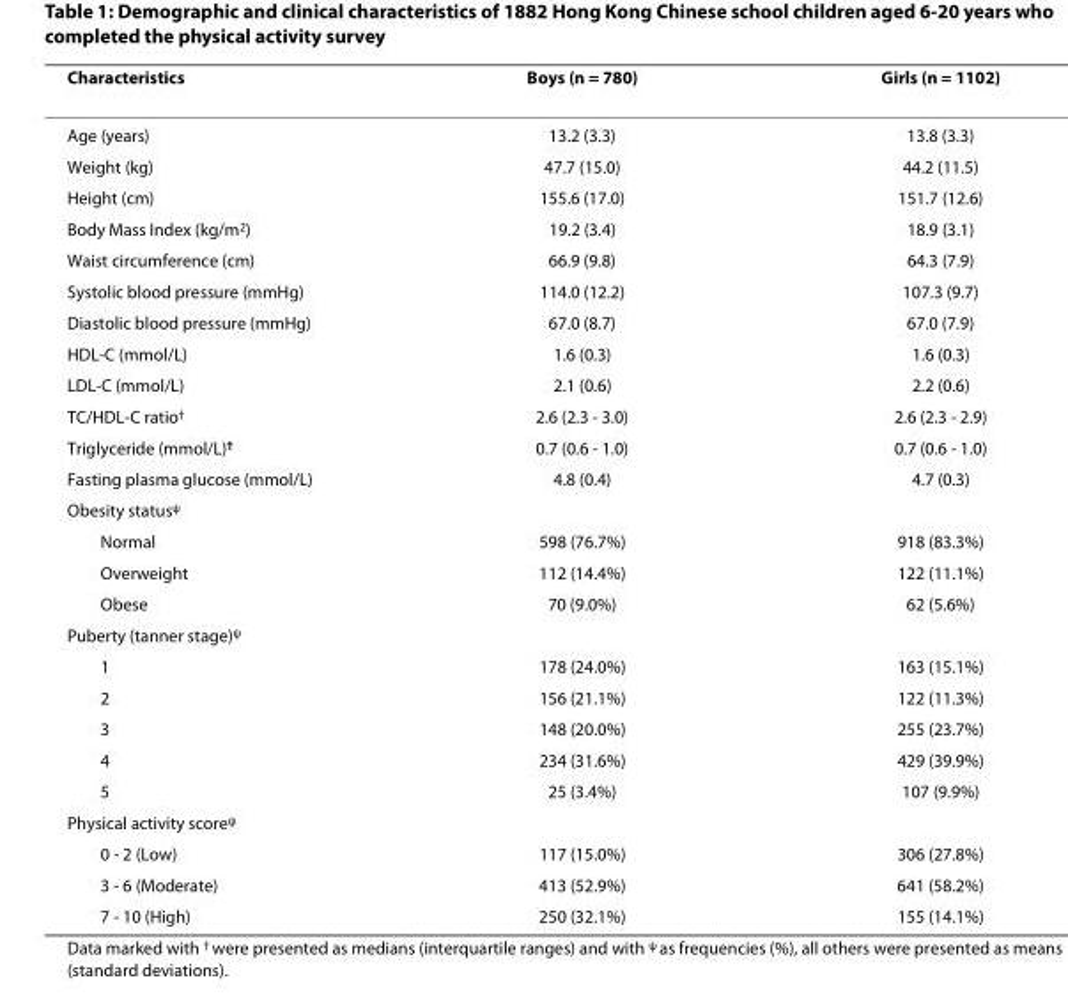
<table><thead><tr><td>Characteristics</td><td>Boys (n = 780)</td><td>Girls (n = 1102)</td></tr></thead><tbody><tr><td>Age (years)</td><td>13.2 (3.3)</td><td>13.8 (3.3)</td></tr><tr><td>Weight (kg)</td><td>47.7 (15.0)</td><td>44.2 (11.5)</td></tr><tr><td>Height (cm)</td><td>155.6 (17.0)</td><td>151.7 (12.6)</td></tr><tr><td>Body Mass Index (kg/m<sup>2</sup>)</td><td>19.2 (3.4)</td><td>18.9 (3.1)</td></tr><tr><td>Waist circumference (cm)</td><td>66.9 (9.8)</td><td>64.3 (7.9)</td></tr><tr><td>Systolic blood pressure (mmHg)</td><td>114.0 (12.2)</td><td>107.3 (9.7)</td></tr><tr><td>Diastolic blood pressure (mmHg)</td><td>67.0 (8.7)</td><td>67.0 (7.9)</td></tr><tr><td>HDL-C (mmol/L)</td><td>1.6 (0.3)</td><td>1.6 (0.3)</td></tr><tr><td>LDL-C (mmol/L)</td><td>2.1 (0.6)</td><td>2.2 (0.6)</td></tr><tr><td>TC/HDL-C ratio<sup>†</sup></td><td>2.6 (2.3 - 3.0)</td><td>2.6 (2.3 - 2.9)</td></tr><tr><td>Triglyceride (mmol/L)<sup>†</sup></td><td>0.7 (0.6 - 1.0)</td><td>0.7 (0.6 - 1.0)</td></tr><tr><td>Fasting plasma glucose (mmol/L)</td><td>4.8 (0.4)</td><td>4.7 (0.3)</td></tr><tr><td colspan="3">Obesity status<sup>ψ</sup></td></tr><tr><td>Normal</td><td>598 (76.7%)</td><td>918 (83.3%)</td></tr><tr><td>Overweight</td><td>112 (14.4%)</td><td>122 (11.1%)</td></tr><tr><td>Obese</td><td>70 (9.0%)</td><td>62 (5.6%)</td></tr><tr><td colspan="3">Puberty (tanner stage)<sup>ψ</sup></td></tr><tr><td>1</td><td>178 (24.0%)</td><td>163 (15.1%)</td></tr><tr><td>2</td><td>156 (21.1%)</td><td>122 (11.3%)</td></tr><tr><td>3</td><td>148 (20.0%)</td><td>255 (23.7%)</td></tr><tr><td>4</td><td>234 (31.6%)</td><td>429 (39.9%)</td></tr><tr><td>5</td><td>25 (3.4%)</td><td>107 (9.9%)</td></tr><tr><td colspan="3">Physical activity score<sup>ψ</sup></td></tr><tr><td>0 - 2 (Low)</td><td>117 (15.0%)</td><td>306 (27.8%)</td></tr><tr><td>3 - 6 (Moderate)</td><td>413 (52.9%)</td><td>641 (58.2%)</td></tr><tr><td>7 - 10 (High)</td><td>250 (32.1%)</td><td>155 (14.1%)</td></tr></tbody></table>